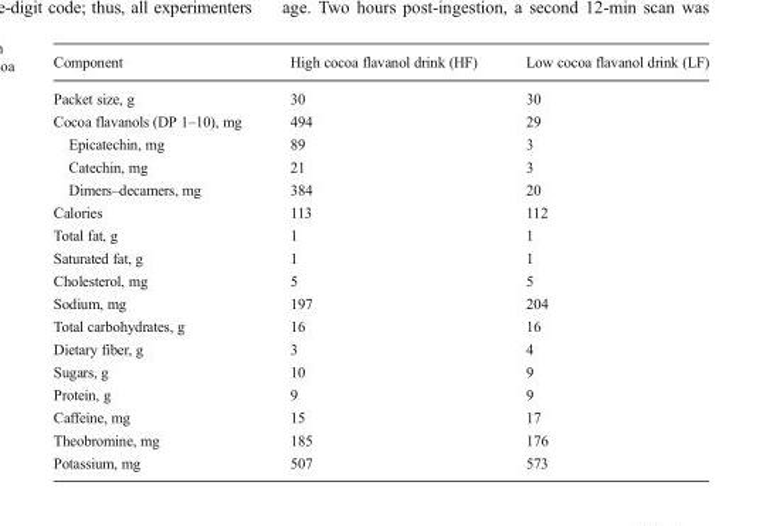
<table><thead><tr><td>Component</td><td>High cocoa flavanol drink (HF)</td><td>Low cocoa flavanol drink (LF)</td></tr></thead><tbody><tr><td>Packet size, g</td><td>30</td><td>30</td></tr><tr><td>Cocoa flavanols (DP 1–10), mg</td><td>494</td><td>29</td></tr><tr><td>Epicatechin, mg</td><td>89</td><td>3</td></tr><tr><td>Catechin, mg</td><td>21</td><td>3</td></tr><tr><td>Dimers–decamers, mg</td><td>384</td><td>20</td></tr><tr><td>Calories</td><td>113</td><td>112</td></tr><tr><td>Total fat, g</td><td>1</td><td>1</td></tr><tr><td>Saturated fat, g</td><td>1</td><td>1</td></tr><tr><td>Cholesterol, mg</td><td>5</td><td>5</td></tr><tr><td>Sodium, mg</td><td>197</td><td>204</td></tr><tr><td>Total carbohydrates, g</td><td>16</td><td>16</td></tr><tr><td>Dietary fiber, g</td><td>3</td><td>4</td></tr><tr><td>Sugars, g</td><td>10</td><td>9</td></tr><tr><td>Protein, g</td><td>9</td><td>9</td></tr><tr><td>Caffeine, mg</td><td>15</td><td>17</td></tr><tr><td>Theobromine, mg</td><td>185</td><td>176</td></tr><tr><td>Potassium, mg</td><td>507</td><td>573</td></tr></tbody></table>